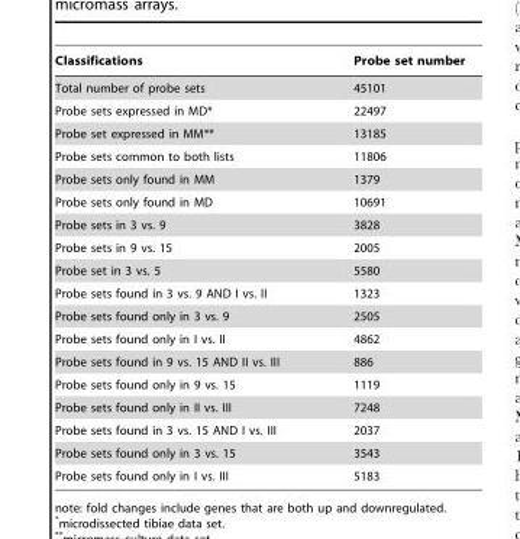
<table><thead><tr><td>Classifications</td><td>Probe set number</td></tr></thead><tbody><tr><td>Total number of probe sets</td><td>45101</td></tr><tr><td>Probe sets expressed in MD*</td><td>22497</td></tr><tr><td>Probe set expressed in MM**</td><td>13185</td></tr><tr><td>Probe sets common to both lists</td><td>11806</td></tr><tr><td>Probe sets only found in MM</td><td>1379</td></tr><tr><td>Probe sets only found in MD</td><td>10691</td></tr><tr><td>Probe sets in 3 vs. 9</td><td>3828</td></tr><tr><td>Probe sets in 9 vs. 15</td><td>2005</td></tr><tr><td>Probe set in 3 vs. 5</td><td>5580</td></tr><tr><td>Probe sets found in 3 vs. 9 AND I vs. II</td><td>1323</td></tr><tr><td>Probe sets found only in 3 vs. 9</td><td>2505</td></tr><tr><td>Probe sets found only in I vs. II</td><td>4862</td></tr><tr><td>Probe sets found in 9 vs. 15 AND II vs. III</td><td>886</td></tr><tr><td>Probe sets found only in 9 vs. 15</td><td>1119</td></tr><tr><td>Probe sets found only in II vs. III</td><td>7248</td></tr><tr><td>Probe sets found in 3 vs. 15 AND I vs. III</td><td>2037</td></tr><tr><td>Probe sets found only in 3 vs. 15</td><td>3543</td></tr><tr><td>Probe sets found only in I vs. III</td><td>5183</td></tr></tbody></table>